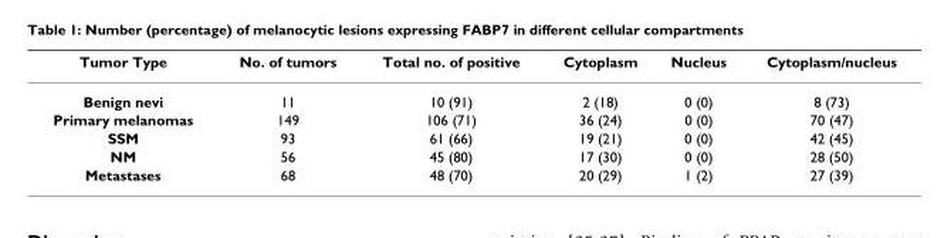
<table><thead><tr><td>Tumor Type</td><td>No. of tumors</td><td>Total no. of positive</td><td>Cytoplasm</td><td>Nucleus</td><td>Cytoplasm/nucleus</td></tr></thead><tbody><tr><td>Benign nevi</td><td>11</td><td>10 (91)</td><td>2 (18)</td><td>0 (0)</td><td>8 (73)</td></tr><tr><td>Primary melanomas</td><td>149</td><td>106 (71)</td><td>36 (24)</td><td>0 (0)</td><td>70 (47)</td></tr><tr><td>SSM</td><td>93</td><td>61 (66)</td><td>19 (21)</td><td>0 (0)</td><td>42 (45)</td></tr><tr><td>NM</td><td>56</td><td>45 (80)</td><td>17 (30)</td><td>0 (0)</td><td>28 (50)</td></tr><tr><td>Metastases</td><td>68</td><td>48 (70)</td><td>20 (29)</td><td>1 (2)</td><td>27 (39)</td></tr></tbody></table>